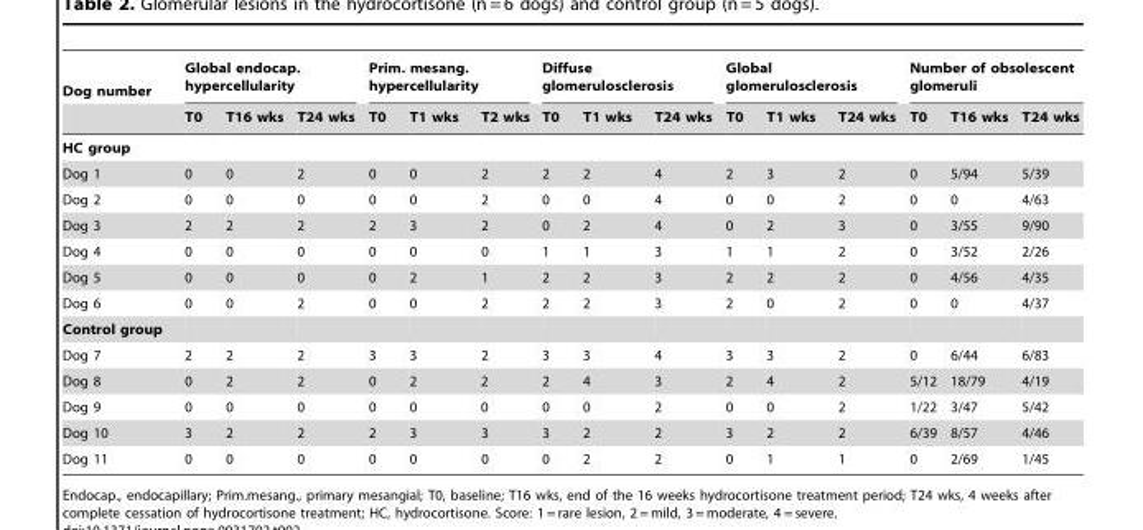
<table><thead><tr><td rowspan="2">Dog number</td><td colspan="3">Global endocap. hypercellularity</td><td colspan="3">Prim. mesang. hypercellularity</td><td colspan="3">Diffuse glomerulosclerosis</td><td colspan="3">Global glomerulosclerosis</td><td colspan="3">Number of obsolescent glomeruli</td></tr><tr><td>T0</td><td>T16 wks</td><td>T24 wks</td><td>T0</td><td>T1 wks</td><td>T2 wks</td><td>T0</td><td>T1 wks</td><td>T24 wks</td><td>T0</td><td>T1 wks</td><td>T24 wks</td><td>T0</td><td>T16 wks</td><td>T24 wks</td></tr></thead><tbody><tr><td colspan="16">HC group</td></tr><tr><td>Dog 1</td><td>0</td><td>0</td><td>2</td><td>0</td><td>0</td><td>2</td><td>2</td><td>2</td><td>4</td><td>2</td><td>3</td><td>2</td><td>0</td><td>5/94</td><td>5/39</td></tr><tr><td>Dog 2</td><td>0</td><td>0</td><td>0</td><td>0</td><td>0</td><td>2</td><td>0</td><td>0</td><td>4</td><td>0</td><td>0</td><td>2</td><td>0</td><td>0</td><td>4/63</td></tr><tr><td>Dog 3</td><td>2</td><td>2</td><td>2</td><td>2</td><td>3</td><td>2</td><td>0</td><td>2</td><td>4</td><td>0</td><td>2</td><td>3</td><td>0</td><td>3/55</td><td>9/90</td></tr><tr><td>Dog 4</td><td>0</td><td>0</td><td>0</td><td>0</td><td>0</td><td>0</td><td>1</td><td>1</td><td>3</td><td>1</td><td>1</td><td>2</td><td>0</td><td>3/52</td><td>2/26</td></tr><tr><td>Dog 5</td><td>0</td><td>0</td><td>0</td><td>0</td><td>2</td><td>1</td><td>2</td><td>2</td><td>3</td><td>2</td><td>2</td><td>2</td><td>0</td><td>4/56</td><td>4/35</td></tr><tr><td>Dog 6</td><td>0</td><td>0</td><td>2</td><td>0</td><td>0</td><td>2</td><td>2</td><td>2</td><td>3</td><td>2</td><td>0</td><td>2</td><td>0</td><td>0</td><td>4/37</td></tr><tr><td colspan="16">Control group</td></tr><tr><td>Dog 7</td><td>2</td><td>2</td><td>2</td><td>3</td><td>3</td><td>2</td><td>3</td><td>3</td><td>4</td><td>3</td><td>3</td><td>2</td><td>0</td><td>6/44</td><td>6/83</td></tr><tr><td>Dog 8</td><td>0</td><td>2</td><td>2</td><td>0</td><td>2</td><td>2</td><td>2</td><td>4</td><td>3</td><td>2</td><td>4</td><td>2</td><td>5/12</td><td>18/79</td><td>4/19</td></tr><tr><td>Dog 9</td><td>0</td><td>0</td><td>0</td><td>0</td><td>0</td><td>0</td><td>0</td><td>0</td><td>2</td><td>0</td><td>0</td><td>2</td><td>1/22</td><td>3/47</td><td>5/42</td></tr><tr><td>Dog 10</td><td>3</td><td>2</td><td>2</td><td>2</td><td>3</td><td>3</td><td>3</td><td>2</td><td>2</td><td>3</td><td>2</td><td>2</td><td>6/39</td><td>8/57</td><td>4/46</td></tr><tr><td>Dog 11</td><td>0</td><td>0</td><td>0</td><td>0</td><td>0</td><td>0</td><td>0</td><td>2</td><td>2</td><td>0</td><td>1</td><td>1</td><td>0</td><td>2/69</td><td>1/45</td></tr></tbody></table>